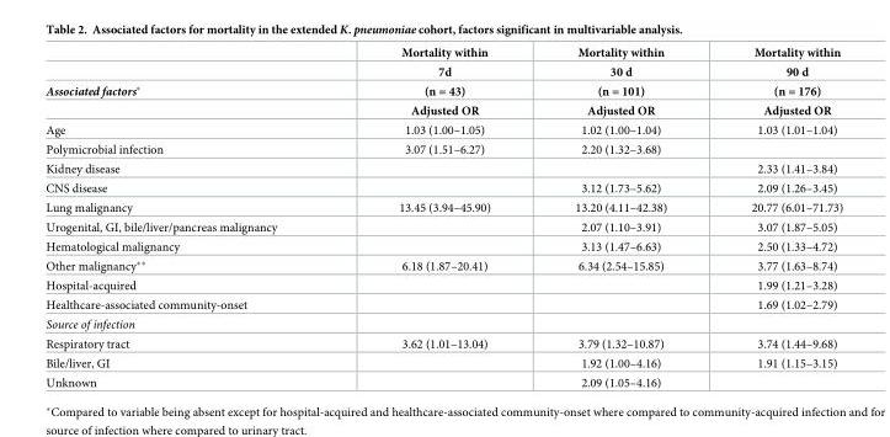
<table><thead><tr><td rowspan="4">Associated factors*</td><td rowspan="4">Mortality within 7d (n = 43) Adjusted OR</td><td rowspan="4">Mortality within 30 d (n = 101) Adjusted OR</td><td rowspan="4">Mortality within 90 d (n = 176) Adjusted OR</td></tr><tr></tr><tr></tr><tr></tr></thead><tbody><tr><td>Age</td><td>1.03 (1.00–1.05)</td><td>1.02 (1.00–1.04)</td><td>1.03 (1.01–1.04)</td></tr><tr><td>Polymicrobial infection</td><td>3.07 (1.51–6.27)</td><td>2.20 (1.32–3.68)</td><td></td></tr><tr><td>Kidney disease</td><td></td><td></td><td>2.33 (1.41–3.84)</td></tr><tr><td>CNS disease</td><td></td><td>3.12 (1.73–5.62)</td><td>2.09 (1.26–3.45)</td></tr><tr><td>Lung malignancy</td><td>13.45 (3.94–45.90)</td><td>13.20 (4.11–42.38)</td><td>20.77 (6.01–71.73)</td></tr><tr><td>Urogenital, GI, bile/liver/pancreas malignancy</td><td></td><td>2.07 (1.10–3.91)</td><td>3.07 (1.87–5.05)</td></tr><tr><td>Hematological malignancy</td><td></td><td>3.13 (1.47–6.63)</td><td>2.50 (1.33–4.72)</td></tr><tr><td>Other malignancy**</td><td>6.18 (1.87–20.41)</td><td>6.34 (2.54–15.85)</td><td>3.77 (1.63–8.74)</td></tr><tr><td>Hospital-acquired</td><td></td><td></td><td>1.99 (1.21–3.28)</td></tr><tr><td>Healthcare-associated community-onset</td><td></td><td></td><td>1.69 (1.02–2.79)</td></tr><tr><td colspan="4">Source of infection</td></tr><tr><td>Respiratory tract</td><td>3.62 (1.01–13.04)</td><td>3.79 (1.32–10.87)</td><td>3.74 (1.44–9.68)</td></tr><tr><td>Bile/liver, GI</td><td></td><td>1.92 (1.00–4.16)</td><td>1.91 (1.15–3.15)</td></tr><tr><td>Unknown</td><td></td><td>2.09 (1.05–4.16)</td><td></td></tr></tbody></table>